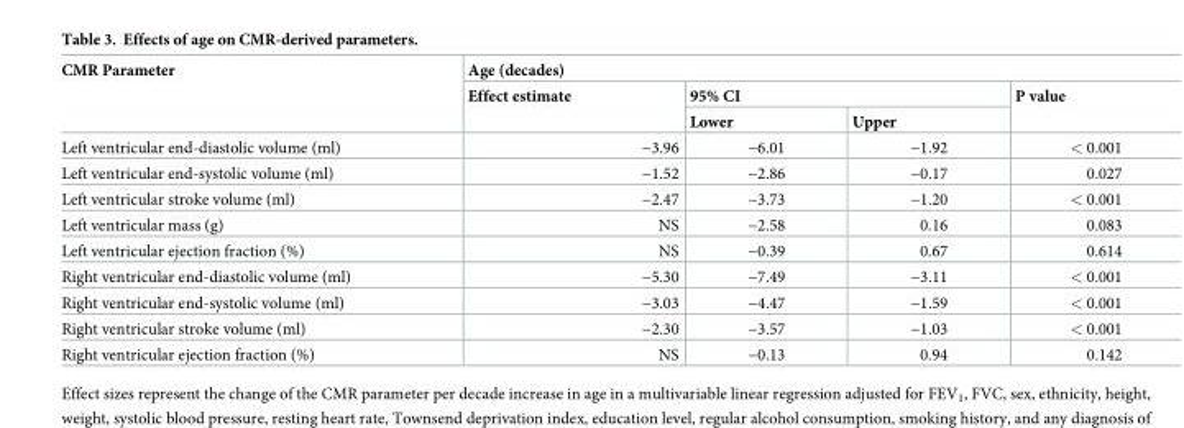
<table><thead><tr><td rowspan="3">CMR Parameter</td><td colspan="4">Age (decades)</td></tr><tr><td rowspan="2">Effect estimate</td><td colspan="2">95% CI</td><td rowspan="2">P value</td></tr><tr><td>Lower</td><td>Upper</td></tr></thead><tbody><tr><td>Left ventricular end-diastolic volume (ml)</td><td>−3.96</td><td>−6.01</td><td>−1.92</td><td>&lt; 0.001</td></tr><tr><td>Left ventricular end-systolic volume (ml)</td><td>−1.52</td><td>−2.86</td><td>−0.17</td><td>0.027</td></tr><tr><td>Left ventricular stroke volume (ml)</td><td>−2.47</td><td>−3.73</td><td>−1.20</td><td>&lt; 0.001</td></tr><tr><td>Left ventricular mass (g)</td><td>NS</td><td>−2.58</td><td>0.16</td><td>0.083</td></tr><tr><td>Left ventricular ejection fraction (%)</td><td>NS</td><td>−0.39</td><td>0.67</td><td>0.614</td></tr><tr><td>Right ventricular end-diastolic volume (ml)</td><td>−5.30</td><td>−7.49</td><td>−3.11</td><td>&lt; 0.001</td></tr><tr><td>Right ventricular end-systolic volume (ml)</td><td>−3.03</td><td>−4.47</td><td>−1.59</td><td>&lt; 0.001</td></tr><tr><td>Right ventricular stroke volume (ml)</td><td>−2.30</td><td>−3.57</td><td>−1.03</td><td>&lt; 0.001</td></tr><tr><td>Right ventricular ejection fraction (%)</td><td>NS</td><td>−0.13</td><td>0.94</td><td>0.142</td></tr></tbody></table>